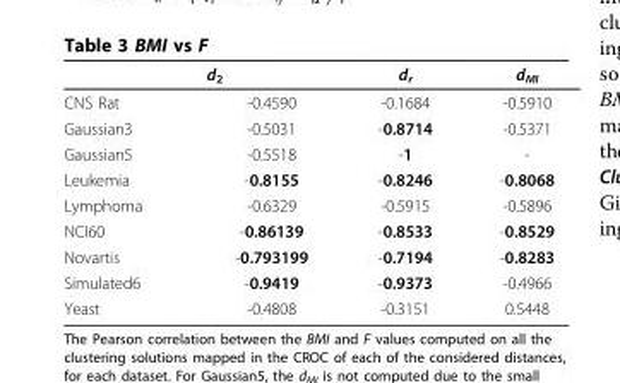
<table><thead><tr><td></td><td>d<sub>2</sub></td><td>d<sub>r</sub></td><td>d<sub>MI</sub></td></tr></thead><tbody><tr><td>CNS Rat</td><td>-0.4590</td><td>-0.1684</td><td>-0.5910</td></tr><tr><td>Gaussian3</td><td>-0.5031</td><td>-0.8714</td><td>-0.5371</td></tr><tr><td>Gaussian5</td><td>-0.5518</td><td>-1</td><td>-</td></tr><tr><td>Leukemia</td><td>-0.8155</td><td>-0.8246</td><td>-0.8068</td></tr><tr><td>Lymphoma</td><td>-0.6329</td><td>-0.5915</td><td>-0.5896</td></tr><tr><td>NCI60</td><td>-0.86139</td><td>-0.8533</td><td>-0.8529</td></tr><tr><td>Novartis</td><td>-0.793199</td><td>-0.7194</td><td>-0.8283</td></tr><tr><td>Simulated6</td><td>-0.9419</td><td>-0.9373</td><td>-0.4966</td></tr><tr><td>Yeast</td><td>-0.4808</td><td>-0.3151</td><td>0.5448</td></tr></tbody></table>